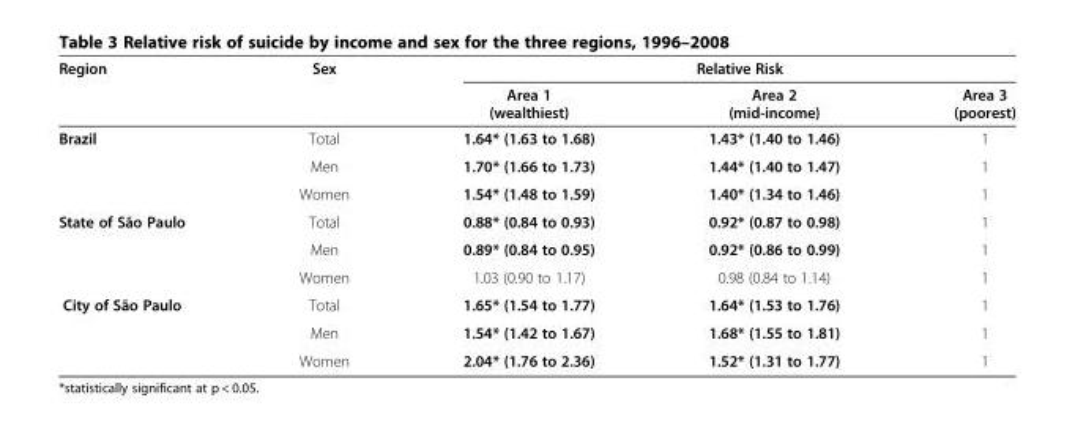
<table><thead><tr><td rowspan="2">Region</td><td rowspan="2">Sex</td><td colspan="3">Relative Risk</td></tr><tr><td>Area 1 (wealthiest)</td><td>Area 2 (mid-income)</td><td>Area 3 (poorest)</td></tr></thead><tbody><tr><td rowspan="3">Brazil</td><td>Total</td><td>1.64* (1.63 to 1.68)</td><td>1.43* (1.40 to 1.46)</td><td>1</td></tr><tr><td>Men</td><td>1.70* (1.66 to 1.73)</td><td>1.44* (1.40 to 1.47)</td><td>1</td></tr><tr><td>Women</td><td>1.54* (1.48 to 1.59)</td><td>1.40* (1.34 to 1.46)</td><td>1</td></tr><tr><td rowspan="3">State of São Paulo</td><td>Total</td><td>0.88* (0.84 to 0.93)</td><td>0.92* (0.87 to 0.98)</td><td>1</td></tr><tr><td>Men</td><td>0.89* (0.84 to 0.95)</td><td>0.92* (0.86 to 0.99)</td><td>1</td></tr><tr><td>Women</td><td>1.03 (0.90 to 1.17)</td><td>0.98 (0.84 to 1.14)</td><td>1</td></tr><tr><td rowspan="3">City of São Paulo</td><td>Total</td><td>1.65* (1.54 to 1.77)</td><td>1.64* (1.53 to 1.76)</td><td>1</td></tr><tr><td>Men</td><td>1.54* (1.42 to 1.67)</td><td>1.68* (1.55 to 1.81)</td><td>1</td></tr><tr><td>Women</td><td>2.04* (1.76 to 2.36)</td><td>1.52* (1.31 to 1.77)</td><td>1</td></tr></tbody></table>